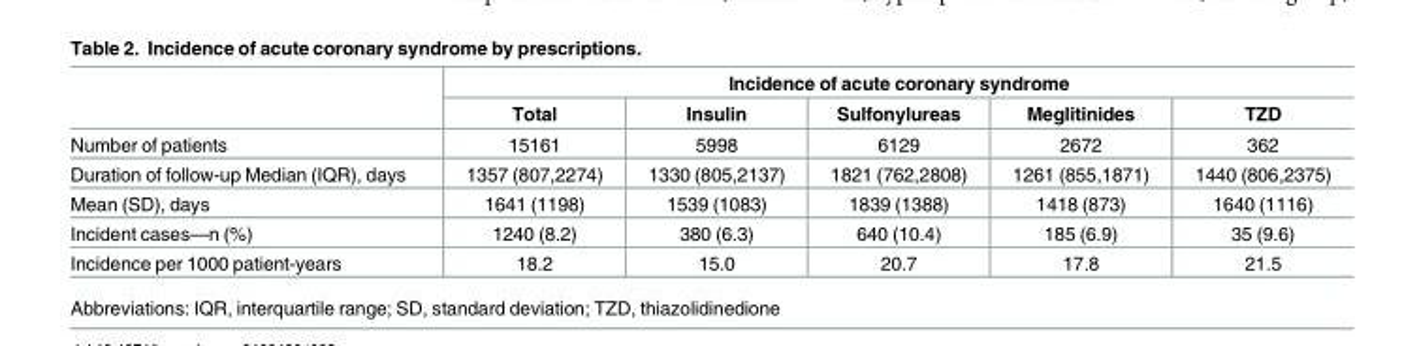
<table><thead><tr><td rowspan="2"></td><td colspan="5">Incidence of acute coronary syndrome</td></tr><tr><td>Total</td><td>Insulin</td><td>Sulfonylureas</td><td>Meglitinides</td><td>TZD</td></tr></thead><tbody><tr><td>Number of patients</td><td>15161</td><td>5998</td><td>6129</td><td>2672</td><td>362</td></tr><tr><td>Duration of follow-up Median (IQR), days</td><td>1357 (807,2274)</td><td>1330 (805,2137)</td><td>1821 (762,2808)</td><td>1261 (855,1871)</td><td>1440 (806,2375)</td></tr><tr><td>Mean (SD), days</td><td>1641 (1198)</td><td>1539 (1083)</td><td>1839 (1388)</td><td>1418 (873)</td><td>1640 (1116)</td></tr><tr><td>Incident cases—n (%)</td><td>1240 (8.2)</td><td>380 (6.3)</td><td>640 (10.4)</td><td>185 (6.9)</td><td>35 (9.6)</td></tr><tr><td>Incidence per 1000 patient-years</td><td>18.2</td><td>15.0</td><td>20.7</td><td>17.8</td><td>21.5</td></tr></tbody></table>